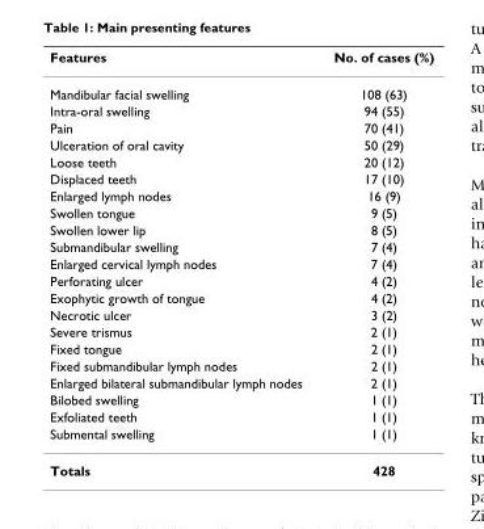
<table><thead><tr><td>Features</td><td>No. of cases (%)</td></tr></thead><tbody><tr><td>Mandibular facial swelling</td><td>108 (63)</td></tr><tr><td>Intra-oral swelling</td><td>94 (55)</td></tr><tr><td>Pain</td><td>70 (41)</td></tr><tr><td>Ulceration of oral cavity</td><td>50 (29)</td></tr><tr><td>Loose teeth</td><td>20 (12)</td></tr><tr><td>Displaced teeth</td><td>17 (10)</td></tr><tr><td>Enlarged lymph nodes</td><td>16 (9)</td></tr><tr><td>Swollen tongue</td><td>9 (5)</td></tr><tr><td>Swollen lower lip</td><td>8 (5)</td></tr><tr><td>Submandibular swelling</td><td>7 (4)</td></tr><tr><td>Enlarged cervical lymph nodes</td><td>7 (4)</td></tr><tr><td>Perforating ulcer</td><td>4 (2)</td></tr><tr><td>Exophytic growth of tongue</td><td>4 (2)</td></tr><tr><td>Necrotic ulcer</td><td>3 (2)</td></tr><tr><td>Severe trismus</td><td>2 (1)</td></tr><tr><td>Fixed tongue</td><td>2 (1)</td></tr><tr><td>Fixed submandibular lymph nodes</td><td>2 (1)</td></tr><tr><td>Enlarged bilateral submandibular lymph nodes</td><td>2 (1)</td></tr><tr><td>Bilobed swelling</td><td>1 (1)</td></tr><tr><td>Exfoliated teeth</td><td>1 (1)</td></tr><tr><td>Submental swelling</td><td>1 (1)</td></tr><tr><td>Totals</td><td>428</td></tr></tbody></table>